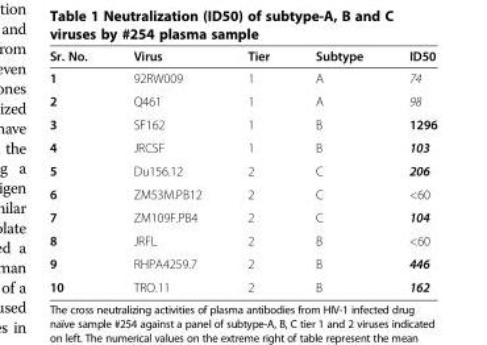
<table><thead><tr><td>Sr. No.</td><td>Virus</td><td>Tier</td><td>Subtype</td><td>ID50</td></tr></thead><tbody><tr><td>1</td><td>92RW009</td><td>1</td><td>A</td><td>74</td></tr><tr><td>2</td><td>Q461</td><td>1</td><td>A</td><td>98</td></tr><tr><td>3</td><td>SF162</td><td>1</td><td>B</td><td>1296</td></tr><tr><td>4</td><td>JRCSF</td><td>1</td><td>B</td><td>103</td></tr><tr><td>5</td><td>Du156.12</td><td>2</td><td>C</td><td>206</td></tr><tr><td>6</td><td>ZM53M.PB12</td><td>2</td><td>C</td><td>&lt;60</td></tr><tr><td>7</td><td>ZM109F.PB4</td><td>2</td><td>C</td><td>104</td></tr><tr><td>8</td><td>JRFL</td><td>2</td><td>B</td><td>&lt;60</td></tr><tr><td>9</td><td>RHPA4259.7</td><td>2</td><td>B</td><td>446</td></tr><tr><td>10</td><td>TRO.11</td><td>2</td><td>B</td><td>162</td></tr></tbody></table>